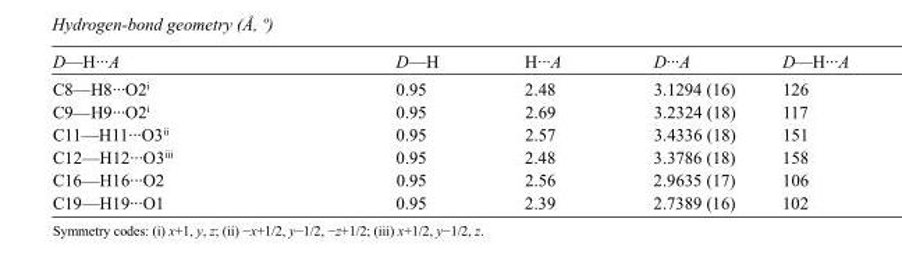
<table><tbody><tr><td>D—H···A</td><td>D—H</td><td>H···A</td><td>D···A</td><td>D—H···A</td></tr><tr><td>C8—H8···O2<sup>i</sup></td><td>0.95</td><td>2.48</td><td>3.1294 (16)</td><td>126</td></tr><tr><td>C9—H9···O2<sup>i</sup></td><td>0.95</td><td>2.69</td><td>3.2324 (18)</td><td>117</td></tr><tr><td>C11—H11···O3<sup>ii</sup></td><td>0.95</td><td>2.57</td><td>3.4336 (18)</td><td>151</td></tr><tr><td>C12—H12···O3<sup>iii</sup></td><td>0.95</td><td>2.48</td><td>3.3786 (18)</td><td>158</td></tr><tr><td>C16—H16···O2</td><td>0.95</td><td>2.56</td><td>2.9635 (17)</td><td>106</td></tr><tr><td>C19—H19···O1</td><td>0.95</td><td>2.39</td><td>2.7389 (16)</td><td>102</td></tr></tbody></table>